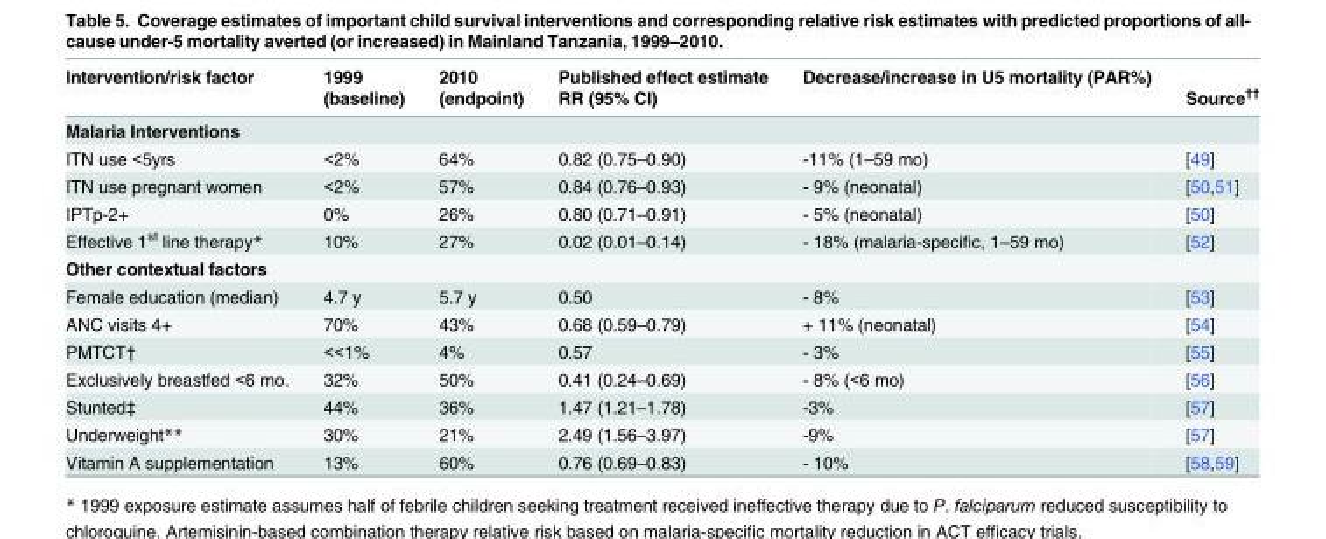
<table><thead><tr><td rowspan="2">Intervention/risk factor</td><td rowspan="2">1999 (baseline)</td><td rowspan="2">2010 (endpoint)</td><td rowspan="2">Published effect estimate RR (95% CI)</td><td rowspan="2">Decrease/increase in U5 mortality (PAR%)</td><td rowspan="2">Source<sup>††</sup></td></tr><tr></tr></thead><tbody><tr><td colspan="6">Malaria Interventions</td></tr><tr><td>ITN use &lt;5yrs</td><td>&lt;2%</td><td>64%</td><td>0.82 (0.75–0.90)</td><td>-11% (1–59 mo)</td><td>[49]</td></tr><tr><td>ITN use pregnant women</td><td>&lt;2%</td><td>57%</td><td>0.84 (0.76–0.93)</td><td>- 9% (neonatal)</td><td>[50,51]</td></tr><tr><td>IPTp-2+</td><td>0%</td><td>26%</td><td>0.80 (0.71–0.91)</td><td>- 5% (neonatal)</td><td>[50]</td></tr><tr><td>Effective 1<sup>st</sup> line therapy*</td><td>10%</td><td>27%</td><td>0.02 (0.01–0.14)</td><td>- 18% (malaria-specific, 1–59 mo)</td><td>[52]</td></tr><tr><td colspan="6">Other contextual factors</td></tr><tr><td>Female education (median)</td><td>4.7 y</td><td>5.7 y</td><td>0.50</td><td>- 8%</td><td>[53]</td></tr><tr><td>ANC visits 4+</td><td>70%</td><td>43%</td><td>0.68 (0.59–0.79)</td><td>+ 11% (neonatal)</td><td>[54]</td></tr><tr><td>PMTCT†</td><td>&lt;&lt;1%</td><td>4%</td><td>0.57</td><td>- 3%</td><td>[55]</td></tr><tr><td>Exclusively breastfed &lt;6 mo.</td><td>32%</td><td>50%</td><td>0.41 (0.24–0.69)</td><td>- 8% (&lt;6 mo)</td><td>[56]</td></tr><tr><td>Stunted‡</td><td>44%</td><td>36%</td><td>1.47 (1.21–1.78)</td><td>-3%</td><td>[57]</td></tr><tr><td>Underweight**</td><td>30%</td><td>21%</td><td>2.49 (1.56–3.97)</td><td>-9%</td><td>[57]</td></tr><tr><td>Vitamin A supplementation</td><td>13%</td><td>60%</td><td>0.76 (0.69–0.83)</td><td>- 10%</td><td>[58,59]</td></tr></tbody></table>